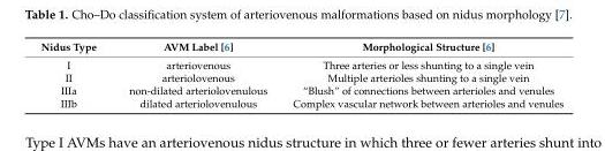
<table><thead><tr><td>Nidus Type</td><td>AVM Label [6]</td><td>Morphological Structure [6]</td></tr></thead><tbody><tr><td>I</td><td>arteriovenous</td><td>Three arteries or less shunting to a single vein</td></tr><tr><td>II</td><td>arteriolovenous</td><td>Multiple arterioles shunting to a single vein</td></tr><tr><td>IIIa</td><td>non-dilated arteriolovenulous</td><td>“Blush” of connections between arterioles and venules</td></tr><tr><td>IIIb</td><td>dilated arteriolovenulous</td><td>Complex vascular network between arterioles and venules</td></tr></tbody></table>